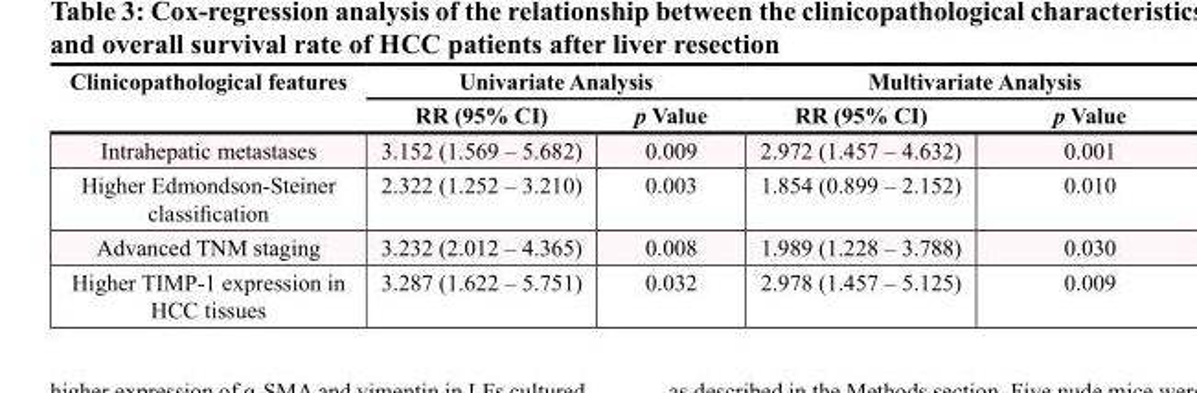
<table><thead><tr><td rowspan="2">Clinicopathological features</td><td colspan="2">Univariate Analysis</td><td colspan="2">Multivariate Analysis</td></tr><tr><td>RR (95% CI)</td><td>p Value</td><td>RR (95% CI)</td><td>p Value</td></tr></thead><tbody><tr><td>Intrahepatic metastases</td><td>3.152 (1.569 – 5.682)</td><td>0.009</td><td>2.972 (1.457 – 4.632)</td><td>0.001</td></tr><tr><td>Higher Edmondson-Steiner classification</td><td>2.322 (1.252 – 3.210)</td><td>0.003</td><td>1.854 (0.899 – 2.152)</td><td>0.010</td></tr><tr><td>Advanced TNM staging</td><td>3.232 (2.012 – 4.365)</td><td>0.008</td><td>1.989 (1.228 – 3.788)</td><td>0.030</td></tr><tr><td>Higher TIMP-1 expression in HCC tissues</td><td>3.287 (1.622 – 5.751)</td><td>0.032</td><td>2.978 (1.457 – 5.125)</td><td>0.009</td></tr></tbody></table>